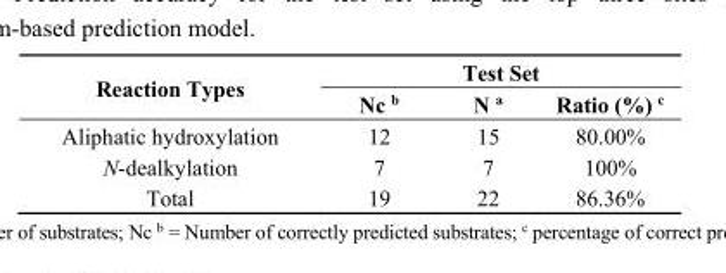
<table><thead><tr><td rowspan="2">Reaction Types</td><td colspan="3">Test Set</td></tr><tr><td>Nc <sup>b</sup></td><td>N <sup>a</sup></td><td>Ratio (%) <sup>c</sup></td></tr></thead><tbody><tr><td>Aliphatic hydroxylation</td><td>12</td><td>15</td><td>80.00%</td></tr><tr><td>N-dealkylation</td><td>7</td><td>7</td><td>100%</td></tr><tr><td>Total</td><td>19</td><td>22</td><td>86.36%</td></tr></tbody></table>